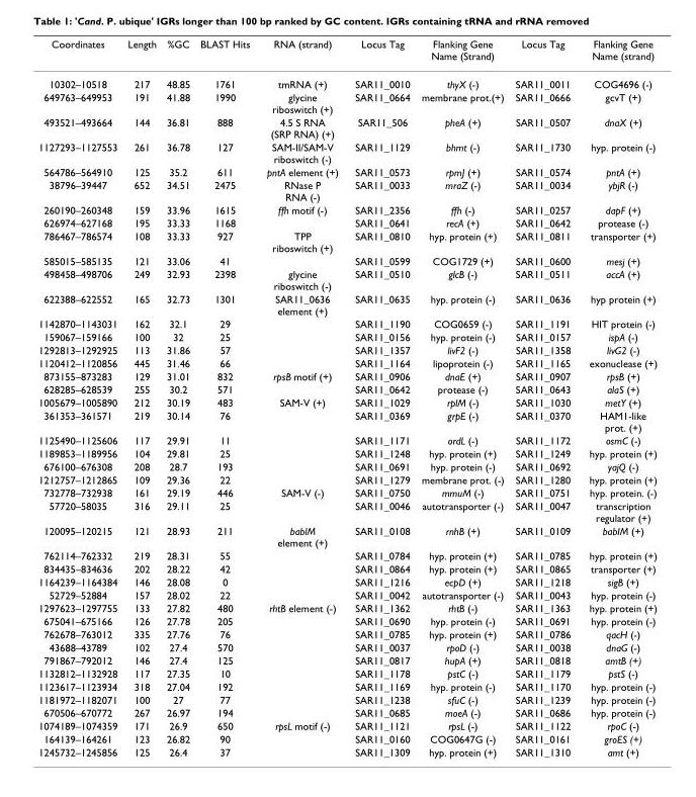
<table><thead><tr><td>Coordinates</td><td>Length</td><td>%GC</td><td>BLAST Hits</td><td>RNA (strand)</td><td>Locus Tag</td><td>Flanking Gene Name (Strand)</td><td>Locus Tag</td><td>Flanking Gene Name (strand)</td></tr></thead><tbody><tr><td>10302–10518</td><td>217</td><td>48.85</td><td>1761</td><td>tmRNA (+)</td><td>SAR11_0010</td><td>thyX (-)</td><td>SAR11_0011</td><td>COG4696 (-)</td></tr><tr><td>649763–649953</td><td>191</td><td>41.88</td><td>1990</td><td>glycine riboswitch (+)</td><td>SAR11_0664</td><td>membrane prot.(+)</td><td>SAR11_0666</td><td>gcvT (+)</td></tr><tr><td>493521–493664</td><td>144</td><td>36.81</td><td>888</td><td>4.5 S RNA (SRP RNA) (+)</td><td>SAR11_506</td><td>pheA (+)</td><td>SAR11_0507</td><td>dnaX (+)</td></tr><tr><td>1127293–1127553</td><td>261</td><td>36.78</td><td>127</td><td>SAM-II/SAM-V riboswitch (-)</td><td>SAR11_1129</td><td>bhmt (-)</td><td>SAR11_1730</td><td>hyp. protein (-)</td></tr><tr><td>564786–564910</td><td>125</td><td>35.2</td><td>611</td><td>pntA element (+)</td><td>SAR11_0573</td><td>rpmJ (+)</td><td>SAR11_0574</td><td>pntA (+)</td></tr><tr><td>38796–39447</td><td>652</td><td>34.51</td><td>2475</td><td>RNase P RNA (-)</td><td>SAR11_0033</td><td>mraZ (-)</td><td>SAR11_0034</td><td>ybjR (-)</td></tr><tr><td>260190–260348</td><td>159</td><td>33.96</td><td>1615</td><td>ffh motif (-)</td><td>SAR11_2356</td><td>ffh (-)</td><td>SAR11_0257</td><td>dapF (+)</td></tr><tr><td>626974–627168</td><td>195</td><td>33.33</td><td>1168</td><td></td><td>SAR11_0641</td><td>recA (+)</td><td>SAR11_0642</td><td>protease (-)</td></tr><tr><td>786467–786574</td><td>108</td><td>33.33</td><td>927</td><td>TPP riboswitch (+)</td><td>SAR11_0810</td><td>hyp. protein (+)</td><td>SAR11_0811</td><td>transporter (+)</td></tr><tr><td>585015–585135</td><td>121</td><td>33.06</td><td>41</td><td></td><td>SAR11_0599</td><td>COG1729 (+)</td><td>SAR11_0600</td><td>mesj (+)</td></tr><tr><td>498458–498706</td><td>249</td><td>32.93</td><td>2398</td><td>glycine riboswitch (-)</td><td>SAR11_0510</td><td>glcB (-)</td><td>SAR11_0511</td><td>accA (+)</td></tr><tr><td>622388–622552</td><td>165</td><td>32.73</td><td>1301</td><td>SAR11_0636 element (+)</td><td>SAR11_0635</td><td>hyp. protein (-)</td><td>SAR11_0636</td><td>hyp protein (+)</td></tr><tr><td>1142870–1143031</td><td>162</td><td>32.1</td><td>29</td><td></td><td>SAR11_1190</td><td>COG0659 (-)</td><td>SAR11_1191</td><td>HIT protein (-)</td></tr><tr><td>159067–159166</td><td>100</td><td>32</td><td>25</td><td></td><td>SAR11_0156</td><td>hyp. protein (-)</td><td>SAR11_0157</td><td>ispA (-)</td></tr><tr><td>1292813–1292925</td><td>113</td><td>31.86</td><td>57</td><td></td><td>SAR11_1357</td><td>livF2 (-)</td><td>SAR11_1358</td><td>livG2 (-)</td></tr><tr><td>1120412–1120856</td><td>445</td><td>31.46</td><td>66</td><td></td><td>SAR11_1164</td><td>lipoprotein (-)</td><td>SAR11_1165</td><td>exonuclease (+)</td></tr><tr><td>873155–873283</td><td>129</td><td>31.01</td><td>832</td><td>rpsB motif (+)</td><td>SAR11_0906</td><td>dnaE (+)</td><td>SAR11_0907</td><td>rpsB (+)</td></tr><tr><td>628285–628539</td><td>255</td><td>30.2</td><td>571</td><td></td><td>SAR11_0642</td><td>protease (-)</td><td>SAR11_0643</td><td>alaS (+)</td></tr><tr><td>1005679–1005890</td><td>212</td><td>30.19</td><td>483</td><td>SAM-V (+)</td><td>SAR11_1029</td><td>rplM (-)</td><td>SAR11_1030</td><td>metY (+)</td></tr><tr><td>361353–361571</td><td>219</td><td>30.14</td><td>76</td><td></td><td>SAR11_0369</td><td>grpE (-)</td><td>SAR11_0370</td><td>HAM1-like prot. (+)</td></tr><tr><td>1125490–1125606</td><td>117</td><td>29.91</td><td>11</td><td></td><td>SAR11_1171</td><td>ordL (-)</td><td>SAR11_1172</td><td>osmC (-)</td></tr><tr><td>1189853–1189956</td><td>104</td><td>29.81</td><td>25</td><td></td><td>SAR11_1248</td><td>hyp. protein (+)</td><td>SAR11_1249</td><td>hyp. protein (+)</td></tr><tr><td>676100–676308</td><td>208</td><td>28.7</td><td>193</td><td></td><td>SAR11_0691</td><td>hyp. protein (-)</td><td>SAR11_0692</td><td>yajQ (-)</td></tr><tr><td>1212757–1212865</td><td>109</td><td>29.36</td><td>22</td><td></td><td>SAR11_1279</td><td>membrane prot. (-)</td><td>SAR11_1280</td><td>hyp. protein (+)</td></tr><tr><td>732778–732938</td><td>161</td><td>29.19</td><td>446</td><td>SAM-V (-)</td><td>SAR11_0750</td><td>mmuM (-)</td><td>SAR11_0751</td><td>hyp. protein. (-)</td></tr><tr><td>57720–58035</td><td>316</td><td>29.11</td><td>25</td><td></td><td>SAR11_0046</td><td>autotransporter (-)</td><td>SAR11_0047</td><td>transcription regulator (+)</td></tr><tr><td>120095–120215</td><td>121</td><td>28.93</td><td>211</td><td>bablM element (+)</td><td>SAR11_0108</td><td>rnhB (+)</td><td>SAR11_0109</td><td>babIM (+)</td></tr><tr><td>762114–762332</td><td>219</td><td>28.31</td><td>55</td><td></td><td>SAR11_0784</td><td>hyp. protein (+)</td><td>SAR11_0785</td><td>hyp. protein (+)</td></tr><tr><td>834435–834636</td><td>202</td><td>28.22</td><td>42</td><td></td><td>SAR11_0864</td><td>hyp. protein (+)</td><td>SAR11_0865</td><td>transporter (+)</td></tr><tr><td>1164239–1164384</td><td>146</td><td>28.08</td><td>0</td><td></td><td>SAR11_1216</td><td>ecpD (+)</td><td>SAR11_1218</td><td>sigB (+)</td></tr><tr><td>52729–52884</td><td>157</td><td>28.02</td><td>22</td><td></td><td>SAR11_0042</td><td>autotransporter (-)</td><td>SAR11_0043</td><td>hyp. protein (-)</td></tr><tr><td>1297623–1297755</td><td>133</td><td>27.82</td><td>480</td><td>rhtB element (-)</td><td>SAR11_1362</td><td>rhtB (-)</td><td>SAR11_1363</td><td>hyp. protein (+)</td></tr><tr><td>675041–675166</td><td>126</td><td>27.78</td><td>205</td><td></td><td>SAR11_0690</td><td>hyp. protein (-)</td><td>SAR11_0691</td><td>hyp. protein (-)</td></tr><tr><td>762678–763012</td><td>335</td><td>27.76</td><td>76</td><td></td><td>SAR11_0785</td><td>hyp. protein (+)</td><td>SAR11_0786</td><td>qacH (-)</td></tr><tr><td>43688–43789</td><td>102</td><td>27.4</td><td>570</td><td></td><td>SAR11_0037</td><td>rpoD (-)</td><td>SAR11_0038</td><td>dnaG (-)</td></tr><tr><td>791867–792012</td><td>146</td><td>27.4</td><td>125</td><td></td><td>SAR11_0817</td><td>hupA (+)</td><td>SAR11_0818</td><td>amtB (+)</td></tr><tr><td>1132812–1132928</td><td>117</td><td>27.35</td><td>10</td><td></td><td>SAR11_1178</td><td>pstC (-)</td><td>SAR11_1179</td><td>pstS (-)</td></tr><tr><td>1123617–1123934</td><td>318</td><td>27.04</td><td>192</td><td></td><td>SAR11_1169</td><td>hyp. protein (-)</td><td>SAR11_1170</td><td>hyp. protein (-)</td></tr><tr><td>1181972–1182071</td><td>100</td><td>27</td><td>77</td><td></td><td>SAR11_1238</td><td>sfuC (-)</td><td>SAR11_1239</td><td>hyp. protein (-)</td></tr><tr><td>670506–670772</td><td>267</td><td>26.97</td><td>194</td><td></td><td>SAR11_0685</td><td>moeA (-)</td><td>SAR11_0686</td><td>hyp. protein (-)</td></tr><tr><td>1074189–1074359</td><td>171</td><td>26.9</td><td>650</td><td>rpsL motif (-)</td><td>SAR11_1121</td><td>rpsL (-)</td><td>SAR11_1122</td><td>rpoC (-)</td></tr><tr><td>164139–164261</td><td>123</td><td>26.82</td><td>90</td><td></td><td>SAR11_0160</td><td>COG0647G (-)</td><td>SAR11_0161</td><td>groES (+)</td></tr><tr><td>1245732–1245856</td><td>125</td><td>26.4</td><td>37</td><td></td><td>SAR11_1309</td><td>hyp. protein (+)</td><td>SAR11_1310</td><td>amt (+)</td></tr></tbody></table>